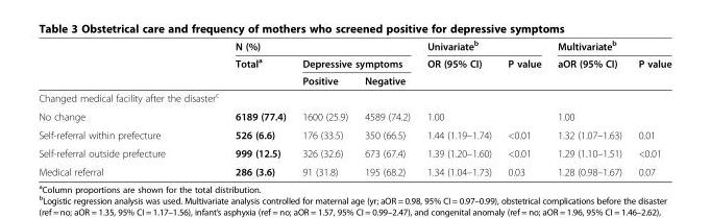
<table><thead><tr><td rowspan="3"></td><td colspan="3">N (%)</td><td colspan="2">Univariate<sup>b</sup></td><td colspan="2">Multivariate<sup>b</sup></td></tr><tr><td rowspan="2">Total<sup>a</sup></td><td colspan="2">Depressive symptoms</td><td rowspan="2">OR (95% CI)</td><td rowspan="2">P value</td><td rowspan="2">aOR (95% CI)</td><td rowspan="2">P value</td></tr><tr><td>Positive</td><td>Negative</td></tr></thead><tbody><tr><td colspan="8">Changed medical facility after the disaster<sup>c</sup></td></tr><tr><td>No change</td><td>6189 (77.4)</td><td>1600 (25.9)</td><td>4589 (74.2)</td><td>1.00</td><td></td><td>1.00</td><td></td></tr><tr><td>Self-referral within prefecture</td><td>526 (6.6)</td><td>176 (33.5)</td><td>350 (66.5)</td><td>1.44 (1.19–1.74)</td><td>&lt;0.01</td><td>1.32 (1.07–1.63)</td><td>0.01</td></tr><tr><td>Self-referral outside prefecture</td><td>999 (12.5)</td><td>326 (32.6)</td><td>673 (67.4)</td><td>1.39 (1.20–1.60)</td><td>&lt;0.01</td><td>1.29 (1.10–1.51)</td><td>&lt;0.01</td></tr><tr><td>Medical referral</td><td>286 (3.6)</td><td>91 (31.8)</td><td>195 (68.2)</td><td>1.34 (1.04–1.73)</td><td>0.03</td><td>1.28 (0.98–1.67)</td><td>0.07</td></tr></tbody></table>